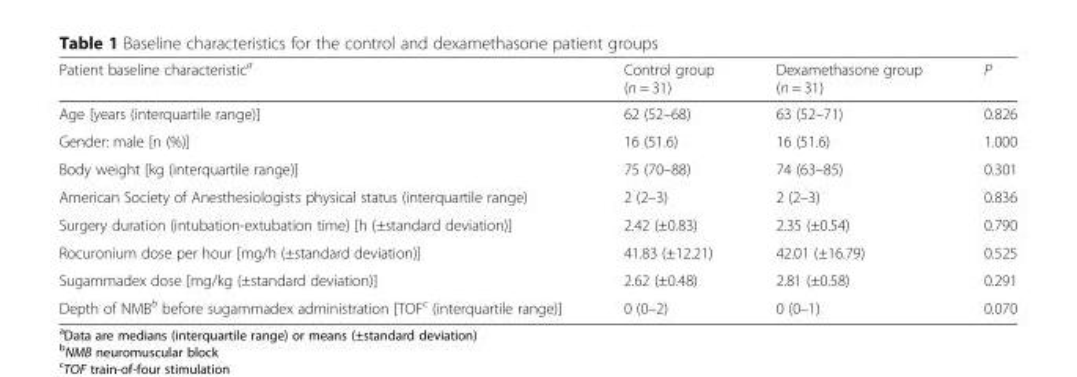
<table><thead><tr><td>Patient baseline characteristic<sup>a</sup></td><td>Control group (n = 31)</td><td>Dexamethasone group (n = 31)</td><td>P</td></tr></thead><tbody><tr><td>Age [years (interquartile range)]</td><td>62 (52–68)</td><td>63 (52–71)</td><td>0.826</td></tr><tr><td>Gender: male [n (%)]</td><td>16 (51.6)</td><td>16 (51.6)</td><td>1.000</td></tr><tr><td>Body weight [kg (interquartile range)]</td><td>75 (70–88)</td><td>74 (63–85)</td><td>0.301</td></tr><tr><td>American Society of Anesthesiologists physical status (interquartile range)</td><td>2 (2–3)</td><td>2 (2–3)</td><td>0.836</td></tr><tr><td>Surgery duration (intubation-extubation time) [h (±standard deviation)]</td><td>2.42 (±0.83)</td><td>2.35 (±0.54)</td><td>0.790</td></tr><tr><td>Rocuronium dose per hour [mg/h (±standard deviation)]</td><td>41.83 (±12.21)</td><td>42.01 (±16.79)</td><td>0.525</td></tr><tr><td>Sugammadex dose [mg/kg (±standard deviation)]</td><td>2.62 (±0.48)</td><td>2.81 (±0.58)</td><td>0.291</td></tr><tr><td>Depth of NMB<sup>b</sup> before sugammadex administration [TOF<sup>c</sup> (interquartile range)]</td><td>0 (0–2)</td><td>0 (0–1)</td><td>0.070</td></tr></tbody></table>